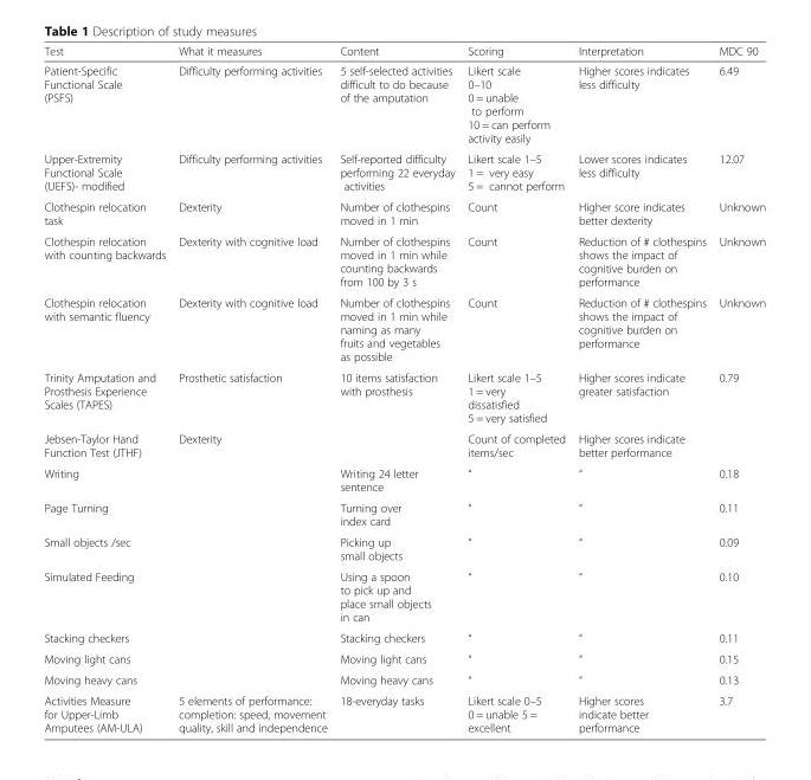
<table><thead><tr><td>Test</td><td>What it measures</td><td>Content</td><td>Scoring</td><td>Interpretation</td><td>MDC 90</td></tr></thead><tbody><tr><td>Patient-Specific Functional Scale (PSFS)</td><td>Difficulty performing activities</td><td>5 self-selected activities difficult to do because of the amputation</td><td>Likert scale 0–10 0 = unable to perform 10 = can perform activity easily</td><td>Higher scores indicates less difficulty</td><td>6.49</td></tr><tr><td>Upper-Extremity Functional Scale (UEFS)- modified</td><td>Difficulty performing activities</td><td>Self-reported difficulty performing 22 everyday activities</td><td>Likert scale 1–5 1 = very easy 5 = cannot perform</td><td>Lower scores indicates less difficulty</td><td>12.07</td></tr><tr><td>Clothespin relocation task</td><td>Dexterity</td><td>Number of clothespins moved in 1 min</td><td>Count</td><td>Higher score indicates better dexterity</td><td>Unknown</td></tr><tr><td>Clothespin relocation with counting backwards</td><td>Dexterity with cognitive load</td><td>Number of clothespins moved in 1 min while counting backwards from 100 by 3 s</td><td>Count</td><td>Reduction of # clothespins shows the impact of cognitive burden on performance</td><td>Unknown</td></tr><tr><td>Clothespin relocation with semantic fluency</td><td>Dexterity with cognitive load</td><td>Number of clothespins moved in 1 min while naming as many fruits and vegetables as possible</td><td>Count</td><td>Reduction of # clothespins shows the impact of cognitive burden on performance</td><td>Unknown</td></tr><tr><td>Trinity Amputation and Prosthesis Experience Scales (TAPES)</td><td>Prosthetic satisfaction</td><td>10 items satisfaction with prosthesis</td><td>Likert scale 1–5 1 = very dissatisfied 5 = very satisfied</td><td>Higher scores indicate greater satisfaction</td><td>0.79</td></tr><tr><td>Jebsen-Taylor Hand Function Test (JTHF)</td><td>Dexterity</td><td></td><td>Count of completed items/sec</td><td>Higher scores indicate better performance</td><td></td></tr><tr><td>Writing</td><td></td><td>Writing 24 letter sentence</td><td>“</td><td>“</td><td>0.18</td></tr><tr><td>Page Turning</td><td></td><td>Turning over index card</td><td>“</td><td>“</td><td>0.11</td></tr><tr><td>Small objects /sec</td><td></td><td>Picking up small objects</td><td>“</td><td>“</td><td>0.09</td></tr><tr><td>Simulated Feeding</td><td></td><td>Using a spoon to pick up and place small objects in can</td><td>“</td><td>“</td><td>0.10</td></tr><tr><td>Stacking checkers</td><td></td><td>Stacking checkers</td><td>“</td><td>“</td><td>0.11</td></tr><tr><td>Moving light cans</td><td></td><td>Moving light cans</td><td>“</td><td>“</td><td>0.15</td></tr><tr><td>Moving heavy cans</td><td></td><td>Moving heavy cans</td><td>“</td><td>“</td><td>0.13</td></tr><tr><td>Activities Measure for Upper-Limb Amputees (AM-ULA)</td><td>5 elements of performance: completion: speed, movement quality, skill and independence</td><td>18-everyday tasks</td><td>Likert scale 0–5 0 = unable 5 = excellent</td><td>Higher scores indicate better performance</td><td>3.7</td></tr></tbody></table>